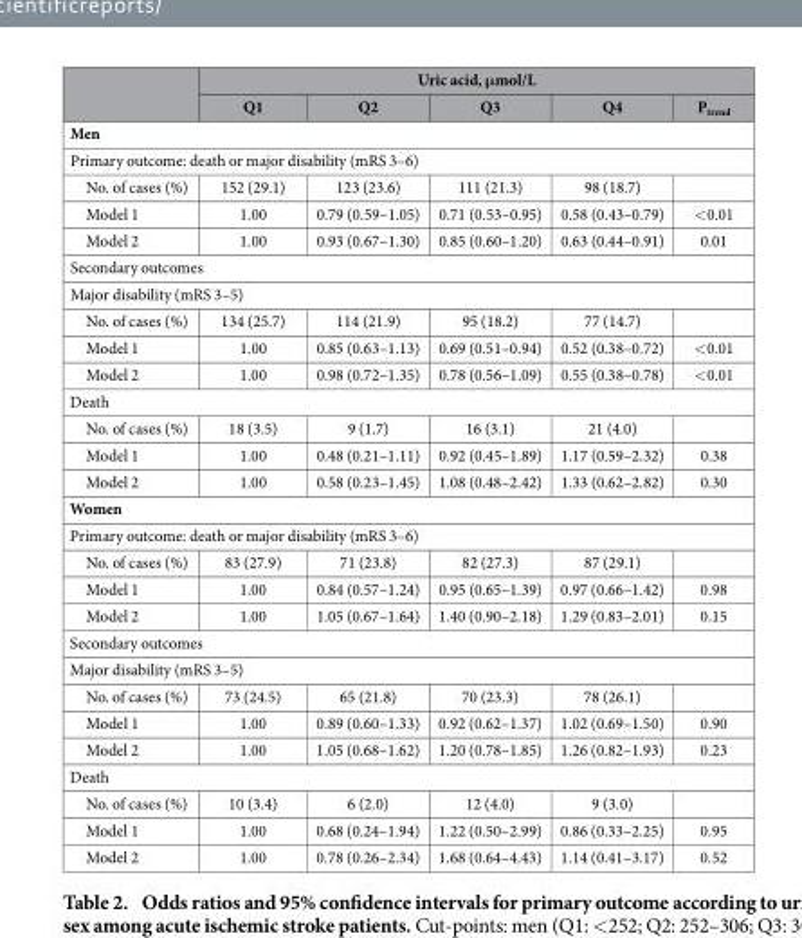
<table><thead><tr><td rowspan="2"></td><td colspan="5">Uric acid, μmol/L</td></tr><tr><td>Q1</td><td>Q2</td><td>Q3</td><td>Q4</td><td>P<sub>trend</sub></td></tr></thead><tbody><tr><td colspan="6">Men</td></tr><tr><td colspan="6">Primary outcome: death or major disability (mRS 3–6)</td></tr><tr><td>No. of cases (%)</td><td>152 (29.1)</td><td>123 (23.6)</td><td>111 (21.3)</td><td>98 (18.7)</td><td></td></tr><tr><td>Model 1</td><td>1.00</td><td>0.79 (0.59–1.05)</td><td>0.71 (0.53–0.95)</td><td>0.58 (0.43–0.79)</td><td>&lt; 0.01</td></tr><tr><td>Model 2</td><td>1.00</td><td>0.93 (0.67–1.30)</td><td>0.85 (0.60–1.20)</td><td>0.63 (0.44–0.91)</td><td>0.01</td></tr><tr><td colspan="6">Secondary outcomes</td></tr><tr><td colspan="6">Major disability (mRS 3–5)</td></tr><tr><td>No. of cases (%)</td><td>134 (25.7)</td><td>114 (21.9)</td><td>95 (18.2)</td><td>77 (14.7)</td><td></td></tr><tr><td>Model 1</td><td>1.00</td><td>0.85 (0.63–1.13)</td><td>0.69 (0.51–0.94)</td><td>0.52 (0.38–0.72)</td><td>&lt; 0.01</td></tr><tr><td>Model 2</td><td>1.00</td><td>0.98 (0.72–1.35)</td><td>0.78 (0.56–1.09)</td><td>0.55 (0.38–0.78)</td><td>&lt; 0.01</td></tr><tr><td colspan="6">Death</td></tr><tr><td>No. of cases (%)</td><td>18 (3.5)</td><td>9 (1.7)</td><td>16 (3.1)</td><td>21 (4.0)</td><td></td></tr><tr><td>Model 1</td><td>1.00</td><td>0.48 (0.21–1.11)</td><td>0.92 (0.45–1.89)</td><td>1.17 (0.59–2.32)</td><td>0.38</td></tr><tr><td>Model 2</td><td>1.00</td><td>0.58 (0.23–1.45)</td><td>1.08 (0.48–2.42)</td><td>1.33 (0.62–2.82)</td><td>0.30</td></tr><tr><td colspan="6">Women</td></tr><tr><td colspan="6">Primary outcome: death or major disability (mRS 3–6)</td></tr><tr><td>No. of cases (%)</td><td>83 (27.9)</td><td>71 (23.8)</td><td>82 (27.3)</td><td>87 (29.1)</td><td></td></tr><tr><td>Model 1</td><td>1.00</td><td>0.84 (0.57–1.24)</td><td>0.95 (0.65–1.39)</td><td>0.97 (0.66–1.42)</td><td>0.98</td></tr><tr><td>Model 2</td><td>1.00</td><td>1.05 (0.67–1.64)</td><td>1.40 (0.90–2.18)</td><td>1.29 (0.83–2.01)</td><td>0.15</td></tr><tr><td colspan="6">Secondary outcomes</td></tr><tr><td colspan="6">Major disability (mRS 3–5)</td></tr><tr><td>No. of cases (%)</td><td>73 (24.5)</td><td>65 (21.8)</td><td>70 (23.3)</td><td>78 (26.1)</td><td></td></tr><tr><td>Model 1</td><td>1.00</td><td>0.89 (0.60–1.33)</td><td>0.92 (0.62–1.37)</td><td>1.02 (0.69–1.50)</td><td>0.90</td></tr><tr><td>Model 2</td><td>1.00</td><td>1.05 (0.68–1.62)</td><td>1.20 (0.78–1.85)</td><td>1.26 (0.82–1.93)</td><td>0.23</td></tr><tr><td colspan="6">Death</td></tr><tr><td>No. of cases (%)</td><td>10 (3.4)</td><td>6 (2.0)</td><td>12 (4.0)</td><td>9 (3.0)</td><td></td></tr><tr><td>Model 1</td><td>1.00</td><td>0.68 (0.24–1.94)</td><td>1.22 (0.50–2.99)</td><td>0.86 (0.33–2.25)</td><td>0.95</td></tr><tr><td>Model 2</td><td>1.00</td><td>0.78 (0.26–2.34)</td><td>1.68 (0.64–4.43)</td><td>1.14 (0.41–3.17)</td><td>0.52</td></tr></tbody></table>